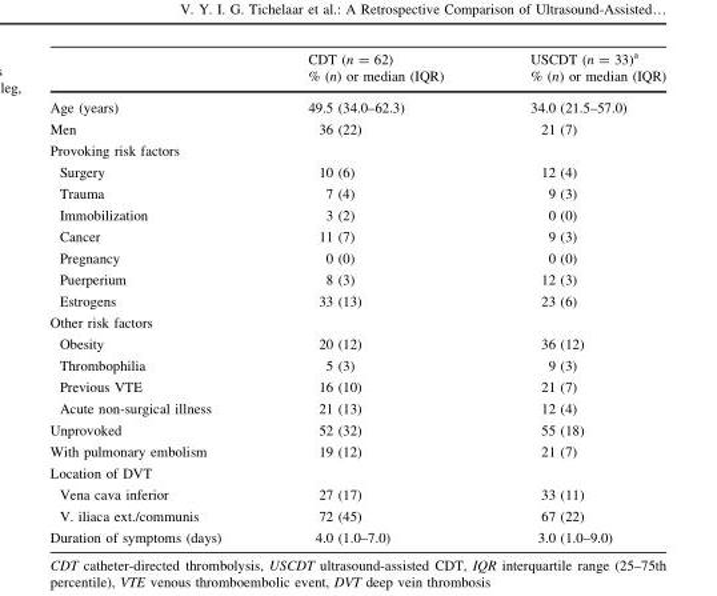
<table><thead><tr><td rowspan="2"></td><td rowspan="2">CDT (n = 62) % (n) or median (IQR)</td><td rowspan="2">USCDT (n = 33)<sup>a</sup> % (n) or median (IQR)</td></tr><tr></tr></thead><tbody><tr><td>Age (years)</td><td>49.5 (34.0–62.3)</td><td>34.0 (21.5–57.0)</td></tr><tr><td>Men</td><td>36 (22)</td><td>21 (7)</td></tr><tr><td colspan="3">Provoking risk factors</td></tr><tr><td>Surgery</td><td>10 (6)</td><td>12 (4)</td></tr><tr><td>Trauma</td><td>7 (4)</td><td>9 (3)</td></tr><tr><td>Immobilization</td><td>3 (2)</td><td>0 (0)</td></tr><tr><td>Cancer</td><td>11 (7)</td><td>9 (3)</td></tr><tr><td>Pregnancy</td><td>0 (0)</td><td>0 (0)</td></tr><tr><td>Puerperium</td><td>8 (3)</td><td>12 (3)</td></tr><tr><td>Estrogens</td><td>33 (13)</td><td>23 (6)</td></tr><tr><td colspan="3">Other risk factors</td></tr><tr><td>Obesity</td><td>20 (12)</td><td>36 (12)</td></tr><tr><td>Thrombophilia</td><td>5 (3)</td><td>9 (3)</td></tr><tr><td>Previous VTE</td><td>16 (10)</td><td>21 (7)</td></tr><tr><td>Acute non-surgical illness</td><td>21 (13)</td><td>12 (4)</td></tr><tr><td>Unprovoked</td><td>52 (32)</td><td>55 (18)</td></tr><tr><td>With pulmonary embolism</td><td>19 (12)</td><td>21 (7)</td></tr><tr><td colspan="3">Location of DVT</td></tr><tr><td>Vena cava inferior</td><td>27 (17)</td><td>33 (11)</td></tr><tr><td>V. iliaca ext./communis</td><td>72 (45)</td><td>67 (22)</td></tr><tr><td>Duration of symptoms (days)</td><td>4.0 (1.0–7.0)</td><td>3.0 (1.0–9.0)</td></tr></tbody></table>